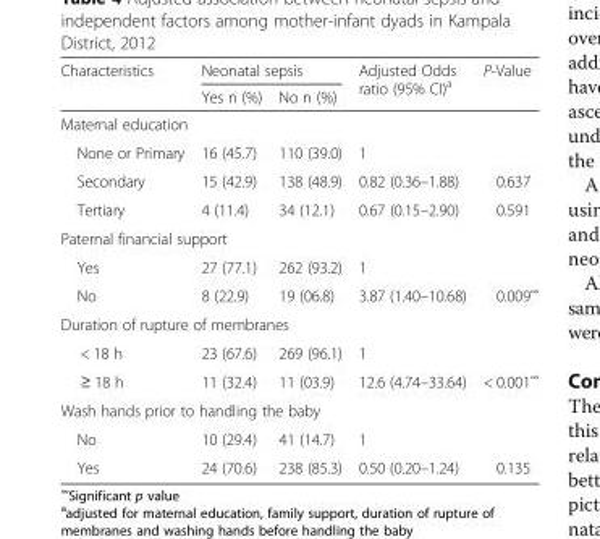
<table><thead><tr><td rowspan="2">Characteristics</td><td colspan="2">Neonatal sepsis</td><td rowspan="2">Adjusted Odds ratio (95% CI)<sup>a</sup></td><td rowspan="2">P-Value</td></tr><tr><td>Yes n (%)</td><td>No n (%)</td></tr></thead><tbody><tr><td colspan="5">Maternal education</td></tr><tr><td>None or Primary</td><td>16 (45.7)</td><td>110 (39.0)</td><td>1</td><td></td></tr><tr><td>Secondary</td><td>15 (42.9)</td><td>138 (48.9)</td><td>0.82 (0.36–1.88)</td><td>0.637</td></tr><tr><td>Tertiary</td><td>4 (11.4)</td><td>34 (12.1)</td><td>0.67 (0.15–2.90)</td><td>0.591</td></tr><tr><td colspan="5">Paternal financial support</td></tr><tr><td>Yes</td><td>27 (77.1)</td><td>262 (93.2)</td><td>1</td><td></td></tr><tr><td>No</td><td>8 (22.9)</td><td>19 (06.8)</td><td>3.87 (1.40–10.68)</td><td>0.009<sup>∞</sup></td></tr><tr><td colspan="5">Duration of rupture of membranes</td></tr><tr><td>&lt; 18 h</td><td>23 (67.6)</td><td>269 (96.1)</td><td>1</td><td></td></tr><tr><td>≥ 18 h</td><td>11 (32.4)</td><td>11 (03.9)</td><td>12.6 (4.74–33.64)</td><td>&lt; 0.001<sup>∞</sup></td></tr><tr><td colspan="5">Wash hands prior to handling the baby</td></tr><tr><td>No</td><td>10 (29.4)</td><td>41 (14.7)</td><td>1</td><td></td></tr><tr><td>Yes</td><td>24 (70.6)</td><td>238 (85.3)</td><td>0.50 (0.20–1.24)</td><td>0.135</td></tr></tbody></table>